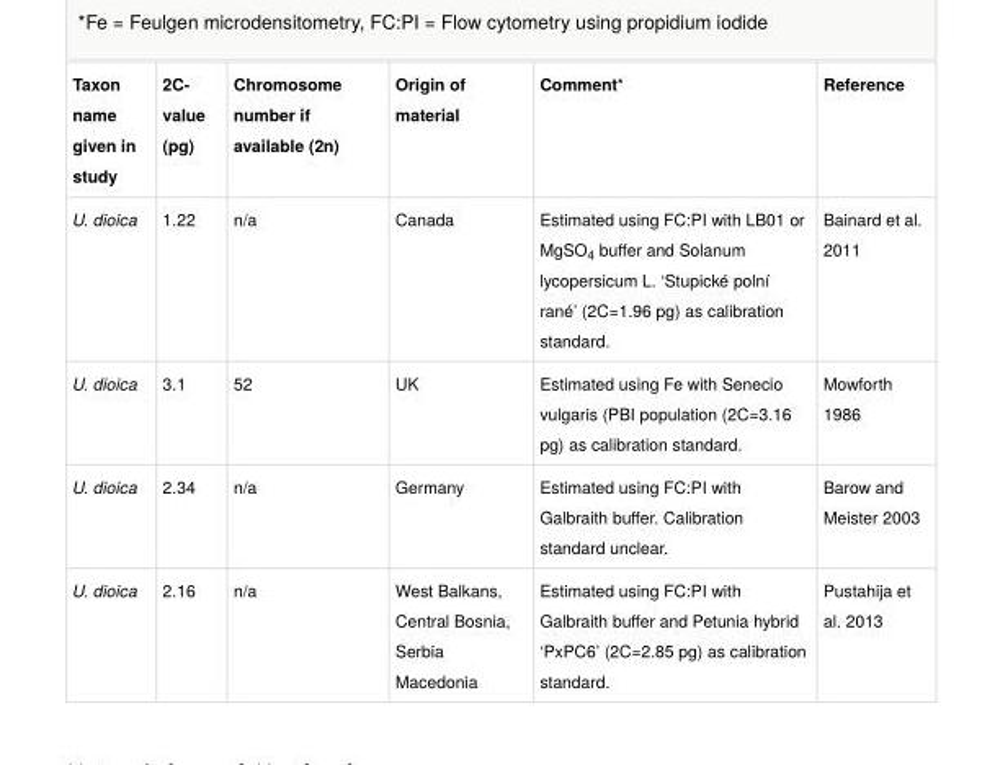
<table><tbody><tr><td>Taxon name given in study</td><td>2C- value (pg)</td><td>Chromosome number if available (2n)</td><td>Origin of material</td><td>Comment*</td><td>Reference</td></tr><tr><td>U. dioica</td><td>1.22</td><td>n/a</td><td>Canada</td><td>Estimated using FC:PI with LB01 or MgSO buffer and Solanum lycopersicum L. ‘Stupické polní rané’ (2C=1.96 pg) as calibration standard. 4</td><td>Bainard et al. 2011</td></tr><tr><td>U. dioica</td><td>3.1</td><td>52</td><td>UK</td><td>Estimated using Fe with Senecio vulgaris (PBI population (2C=3.16 pg) as calibration standard.</td><td>Mowforth 1986</td></tr><tr><td>U. dioica</td><td>2.34</td><td>n/a</td><td>Germany</td><td>Estimated using FC:PI with Galbraith buffer. Calibration standard unclear.</td><td>Barow and Meister 2003</td></tr><tr><td>U. dioica</td><td>2.16</td><td>n/a</td><td>West Balkans, Central Bosnia, Serbia Macedonia</td><td>Estimated using FC:PI with Galbraith buffer and Petunia hybrid ‘PxPC6’ (2C=2.85 pg) as calibration standard.</td><td>Pustahija et al. 2013</td></tr></tbody></table>